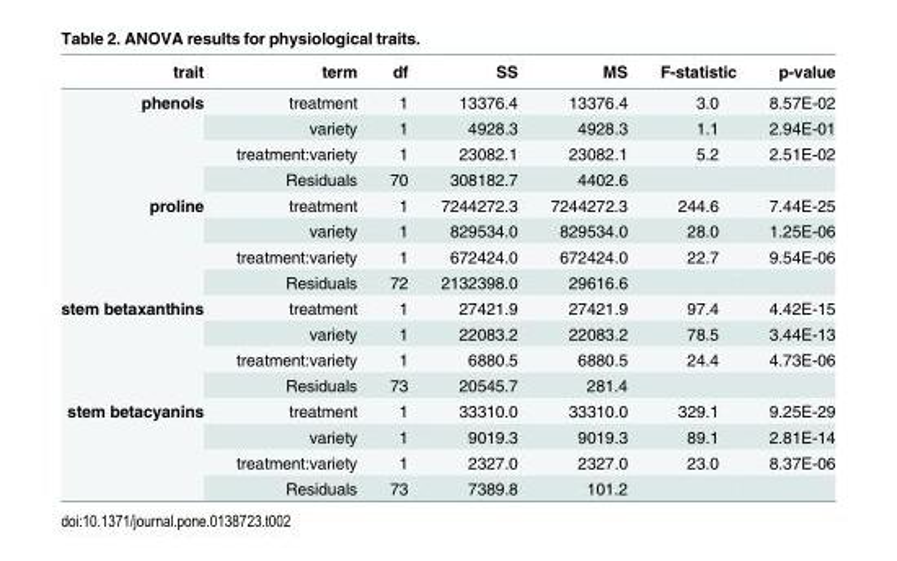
<table><thead><tr><td>trait</td><td>term</td><td>df</td><td>SS</td><td>MS</td><td>F-statistic</td><td>p-value</td></tr></thead><tbody><tr><td rowspan="4">phenols</td><td>treatment</td><td>1</td><td>13376.4</td><td>13376.4</td><td>3.0</td><td>8.57E-02</td></tr><tr><td>variety</td><td>1</td><td>4928.3</td><td>4928.3</td><td>1.1</td><td>2.94E-01</td></tr><tr><td>treatment:variety</td><td>1</td><td>23082.1</td><td>23082.1</td><td>5.2</td><td>2.51E-02</td></tr><tr><td>Residuals</td><td>70</td><td>308182.7</td><td>4402.6</td><td></td><td></td></tr><tr><td rowspan="4">proline</td><td>treatment</td><td>1</td><td>7244272.3</td><td>7244272.3</td><td>244.6</td><td>7.44E-25</td></tr><tr><td>variety</td><td>1</td><td>829534.0</td><td>829534.0</td><td>28.0</td><td>1.25E-06</td></tr><tr><td>treatment:variety</td><td>1</td><td>672424.0</td><td>672424.0</td><td>22.7</td><td>9.54E-06</td></tr><tr><td>Residuals</td><td>72</td><td>2132398.0</td><td>29616.6</td><td></td><td></td></tr><tr><td rowspan="4">stem betaxanthins</td><td>treatment</td><td>1</td><td>27421.9</td><td>27421.9</td><td>97.4</td><td>4.42E-15</td></tr><tr><td>variety</td><td>1</td><td>22083.2</td><td>22083.2</td><td>78.5</td><td>3.44E-13</td></tr><tr><td>treatment:variety</td><td>1</td><td>6880.5</td><td>6880.5</td><td>24.4</td><td>4.73E-06</td></tr><tr><td>Residuals</td><td>73</td><td>20545.7</td><td>281.4</td><td></td><td></td></tr><tr><td rowspan="4">stem betacyanins</td><td>treatment</td><td>1</td><td>33310.0</td><td>33310.0</td><td>329.1</td><td>9.25E-29</td></tr><tr><td>variety</td><td>1</td><td>9019.3</td><td>9019.3</td><td>89.1</td><td>2.81E-14</td></tr><tr><td>treatment:variety</td><td>1</td><td>2327.0</td><td>2327.0</td><td>23.0</td><td>8.37E-06</td></tr><tr><td>Residuals</td><td>73</td><td>7389.8</td><td>101.2</td><td></td><td></td></tr></tbody></table>